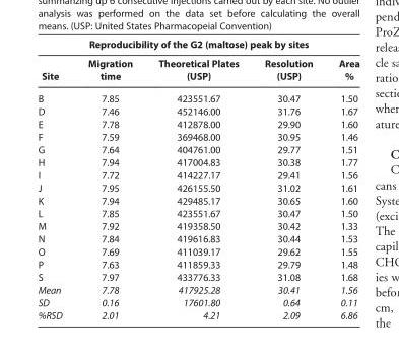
<table><thead><tr><td colspan="5">Reproducibility of the G2 (maltose) peak by sites</td></tr><tr><td>Site</td><td>Migration time</td><td>Theoretical Plates (USP)</td><td>Resolution (USP)</td><td>Area %</td></tr></thead><tbody><tr><td>B</td><td>7.85</td><td>423551.67</td><td>30.47</td><td>1.50</td></tr><tr><td>D</td><td>7.46</td><td>452146.00</td><td>31.76</td><td>1.67</td></tr><tr><td>E</td><td>7.78</td><td>412878.00</td><td>29.90</td><td>1.60</td></tr><tr><td>F</td><td>7.59</td><td>369468.00</td><td>30.95</td><td>1.46</td></tr><tr><td>G</td><td>7.64</td><td>404761.00</td><td>29.77</td><td>1.51</td></tr><tr><td>H</td><td>7.94</td><td>417004.83</td><td>30.38</td><td>1.77</td></tr><tr><td>I</td><td>7.72</td><td>414227.17</td><td>29.41</td><td>1.56</td></tr><tr><td>J</td><td>7.95</td><td>426155.50</td><td>31.02</td><td>1.61</td></tr><tr><td>K</td><td>7.94</td><td>429485.17</td><td>30.65</td><td>1.60</td></tr><tr><td>L</td><td>7.85</td><td>423551.67</td><td>30.47</td><td>1.50</td></tr><tr><td>M</td><td>7.92</td><td>419358.50</td><td>30.42</td><td>1.33</td></tr><tr><td>N</td><td>7.84</td><td>419616.83</td><td>30.44</td><td>1.53</td></tr><tr><td>O</td><td>7.69</td><td>411039.17</td><td>29.62</td><td>1.55</td></tr><tr><td>P</td><td>7.63</td><td>411859.33</td><td>29.79</td><td>1.48</td></tr><tr><td>S</td><td>7.97</td><td>433776.33</td><td>31.08</td><td>1.68</td></tr><tr><td>Mean</td><td>7.78</td><td>417925.28</td><td>30.41</td><td>1.56</td></tr><tr><td>SD</td><td>0.16</td><td>17601.80</td><td>0.64</td><td>0.11</td></tr><tr><td>%RSD</td><td>2.01</td><td>4.21</td><td>2.09</td><td>6.86</td></tr></tbody></table>